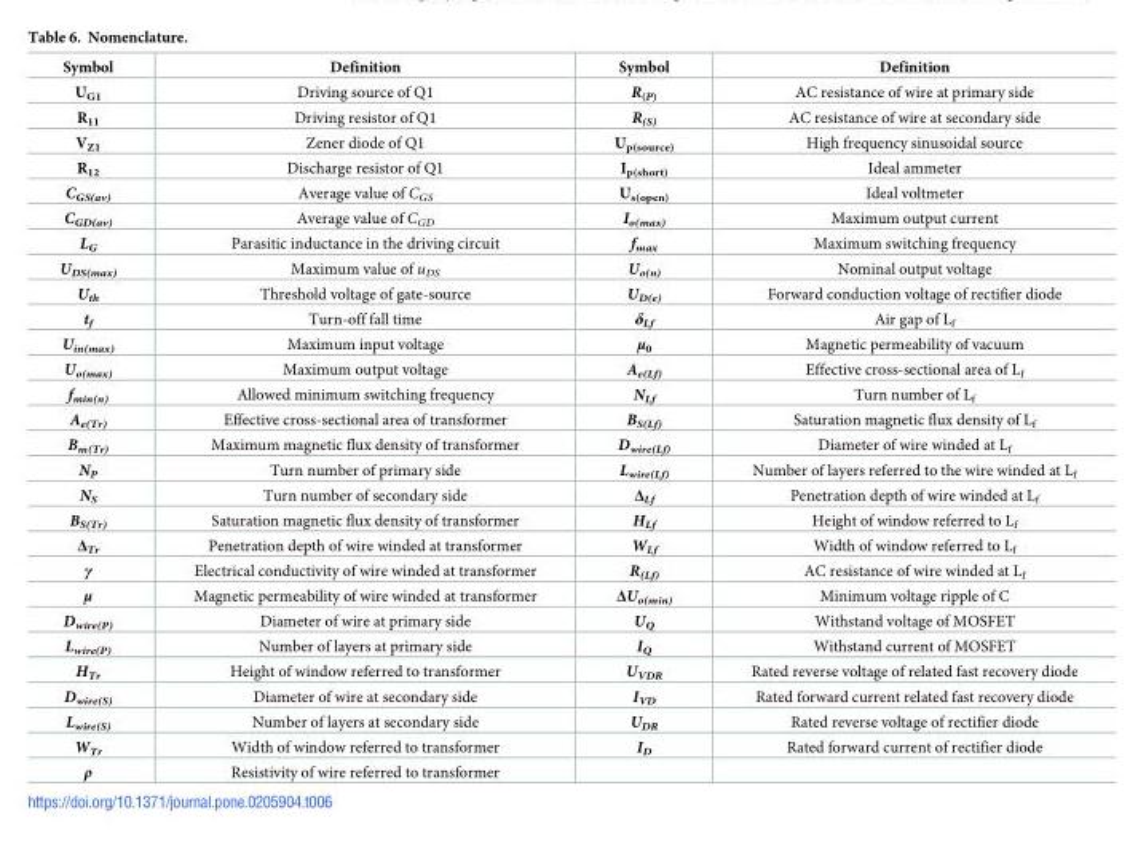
<table><thead><tr><td>Symbol</td><td>Definition</td><td>Symbol</td><td>Definition</td></tr></thead><tbody><tr><td>U<sub>G1</sub></td><td>Driving source of Q1</td><td>R<sub>(P)</sub></td><td>AC resistance of wire at primary side</td></tr><tr><td>R<sub>11</sub></td><td>Driving resistor of Q1</td><td>R<sub>(S)</sub></td><td>AC resistance of wire at secondary side</td></tr><tr><td>V<sub>Z1</sub></td><td>Zener diode of Q1</td><td>U<sub>p(source)</sub></td><td>High frequency sinusoidal source</td></tr><tr><td>R<sub>12</sub></td><td>Discharge resistor of Q1</td><td>I<sub>p(short)</sub></td><td>Ideal ammeter</td></tr><tr><td>C<sub>GS(av)</sub></td><td>Average value of C<sub>GS</sub></td><td>U<sub>s(open)</sub></td><td>Ideal voltmeter</td></tr><tr><td>C<sub>GD(av)</sub></td><td>Average value of C<sub>GD</sub></td><td>I<sub>o(max)</sub></td><td>Maximum output current</td></tr><tr><td>L<sub>G</sub></td><td>Parasitic inductance in the driving circuit</td><td>f<sub>max</sub></td><td>Maximum switching frequency</td></tr><tr><td>U<sub>DS(max)</sub></td><td>Maximum value of u<sub>DS</sub></td><td>U<sub>o(n)</sub></td><td>Nominal output voltage</td></tr><tr><td>U<sub>th</sub></td><td>Threshold voltage of gate-source</td><td>U<sub>D(e)</sub></td><td>Forward conduction voltage of rectifier diode</td></tr><tr><td>t<sub>f</sub></td><td>Turn-off fall time</td><td>δ<sub>Lf</sub></td><td>Air gap of L<sub>f</sub></td></tr><tr><td>U<sub>in(max)</sub></td><td>Maximum input voltage</td><td>μ<sub>0</sub></td><td>Magnetic permeability of vacuum</td></tr><tr><td>U<sub>o(max)</sub></td><td>Maximum output voltage</td><td>A<sub>e(Lf)</sub></td><td>Effective cross-sectional area of L<sub>f</sub></td></tr><tr><td>f<sub>min(n)</sub></td><td>Allowed minimum switching frequency</td><td>N<sub>Lf</sub></td><td>Turn number of L<sub>f</sub></td></tr><tr><td>A<sub>e(Tr)</sub></td><td>Effective cross-sectional area of transformer</td><td>B<sub>S(Lf)</sub></td><td>Saturation magnetic flux density of L<sub>f</sub></td></tr><tr><td>B<sub>m(Tr)</sub></td><td>Maximum magnetic flux density of transformer</td><td>D<sub>wire(Lf)</sub></td><td>Diameter of wire winded at L<sub>f</sub></td></tr><tr><td>N<sub>P</sub></td><td>Turn number of primary side</td><td>L<sub>wire(Lf)</sub></td><td>Number of layers referred to the wire winded at L<sub>f</sub></td></tr><tr><td>N<sub>S</sub></td><td>Turn number of secondary side</td><td>Δ<sub>Lf</sub></td><td>Penetration depth of wire winded at L<sub>f</sub></td></tr><tr><td>B<sub>S(Tr)</sub></td><td>Saturation magnetic flux density of transformer</td><td>H<sub>Lf</sub></td><td>Height of window referred to L<sub>f</sub></td></tr><tr><td>Δ<sub>Tr</sub></td><td>Penetration depth of wire winded at transformer</td><td>W<sub>Lf</sub></td><td>Width of window referred to L<sub>f</sub></td></tr><tr><td>γ</td><td>Electrical conductivity of wire winded at transformer</td><td>R<sub>(Lf)</sub></td><td>AC resistance of wire winded at L<sub>f</sub></td></tr><tr><td>μ</td><td>Magnetic permeability of wire winded at transformer</td><td>ΔU<sub>o(min)</sub></td><td>Minimum voltage ripple of C</td></tr><tr><td>D<sub>wire(P)</sub></td><td>Diameter of wire at primary side</td><td>U<sub>Q</sub></td><td>Withstand voltage of MOSFET</td></tr><tr><td>L<sub>wire(P)</sub></td><td>Number of layers at primary side</td><td>I<sub>Q</sub></td><td>Withstand current of MOSFET</td></tr><tr><td>H<sub>Tr</sub></td><td>Height of window referred to transformer</td><td>U<sub>VDR</sub></td><td>Rated reverse voltage of related fast recovery diode</td></tr><tr><td>D<sub>wire(S)</sub></td><td>Diameter of wire at secondary side</td><td>I<sub>VD</sub></td><td>Rated forward current related fast recovery diode</td></tr><tr><td>L<sub>wire(S)</sub></td><td>Number of layers at secondary side</td><td>U<sub>DR</sub></td><td>Rated reverse voltage of rectifier diode</td></tr><tr><td>W<sub>Tr</sub></td><td>Width of window referred to transformer</td><td>I<sub>D</sub></td><td>Rated forward current of rectifier diode</td></tr><tr><td>ρ</td><td>Resistivity of wire referred to transformer</td><td></td><td></td></tr></tbody></table>